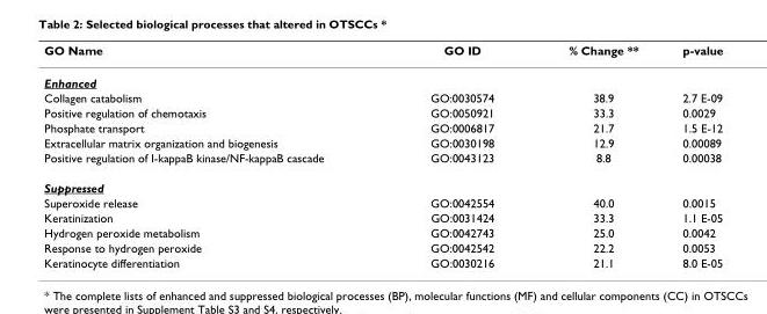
<table><thead><tr><td>GO Name</td><td>GO ID</td><td>% Change **</td><td>p-value</td></tr></thead><tbody><tr><td colspan="4">Enhanced</td></tr><tr><td>Collagen catabolism</td><td>GO:0030574</td><td>38.9</td><td>2.7 E-09</td></tr><tr><td>Positive regulation of chemotaxis</td><td>GO:0050921</td><td>33.3</td><td>0.0029</td></tr><tr><td>Phosphate transport</td><td>GO:0006817</td><td>21.7</td><td>1.5 E-12</td></tr><tr><td>Extracellular matrix organization and biogenesis</td><td>GO:0030198</td><td>12.9</td><td>0.00089</td></tr><tr><td>Positive regulation of I-kappaB kinase/NF-kappaB cascade</td><td>GO:0043123</td><td>8.8</td><td>0.00038</td></tr><tr><td colspan="4">Suppressed</td></tr><tr><td>Superoxide release</td><td>GO:0042554</td><td>40.0</td><td>0.0015</td></tr><tr><td>Keratinization</td><td>GO:0031424</td><td>33.3</td><td>1.1 E-05</td></tr><tr><td>Hydrogen peroxide metabolism</td><td>GO:0042743</td><td>25.0</td><td>0.0042</td></tr><tr><td>Response to hydrogen peroxide</td><td>GO:0042542</td><td>22.2</td><td>0.0053</td></tr><tr><td>Keratinocyte differentiation</td><td>GO:0030216</td><td>21.1</td><td>8.0 E-05</td></tr></tbody></table>